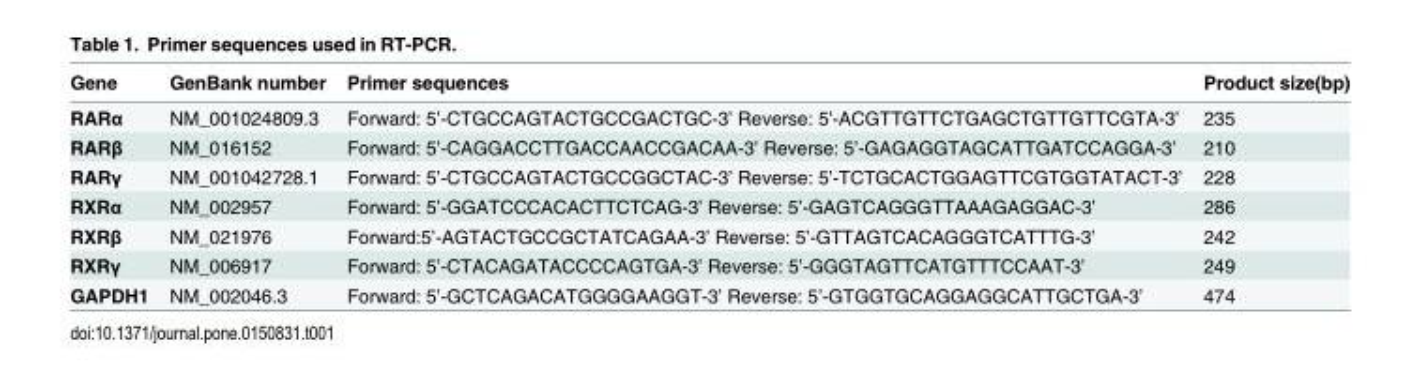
<table><thead><tr><td>Gene</td><td>GenBank number</td><td>Primer sequences</td><td>Product size(bp)</td></tr></thead><tbody><tr><td>RARα</td><td>NM_001024809.3</td><td>Forward: 5’-CTGCCAGTACTGCCGACTGC-3’ Reverse: 5’-ACGTTGTTCTGAGCTGTTGTTCGTA-3’</td><td>235</td></tr><tr><td>RARβ</td><td>NM_016152</td><td>Forward: 5’-CAGGACCTTGACCAACCGACAA-3’ Reverse: 5’-GAGAGGTAGCATTGATCCAGGA-3’</td><td>210</td></tr><tr><td>RARγ</td><td>NM_001042728.1</td><td>Forward: 5’-CTGCCAGTACTGCCGGCTAC-3’ Reverse: 5’-TCTGCACTGGAGTTCGTGGTATACT-3’</td><td>228</td></tr><tr><td>RXRα</td><td>NM_002957</td><td>Forward: 5’-GGATCCCACACTTCTCAG-3’ Reverse: 5’-GAGTCAGGGTTAAAGAGGAC-3’</td><td>286</td></tr><tr><td>RXRβ</td><td>NM_021976</td><td>Forward:5’-AGTACTGCCGCTATCAGAA-3’ Reverse: 5’-GTTAGTCACAGGGTCATTTG-3’</td><td>242</td></tr><tr><td>RXRγ</td><td>NM_006917</td><td>Forward: 5’-CTACAGATACCCCAGTGA-3’ Reverse: 5’-GGGTAGTTCATGTTTCCAAT-3’</td><td>249</td></tr><tr><td>GAPDH1</td><td>NM_002046.3</td><td>Forward: 5’-GCTCAGACATGGGGAAGGT-3’ Reverse: 5’-GTGGTGCAGGAGGCATTGCTGA-3’</td><td>474</td></tr></tbody></table>